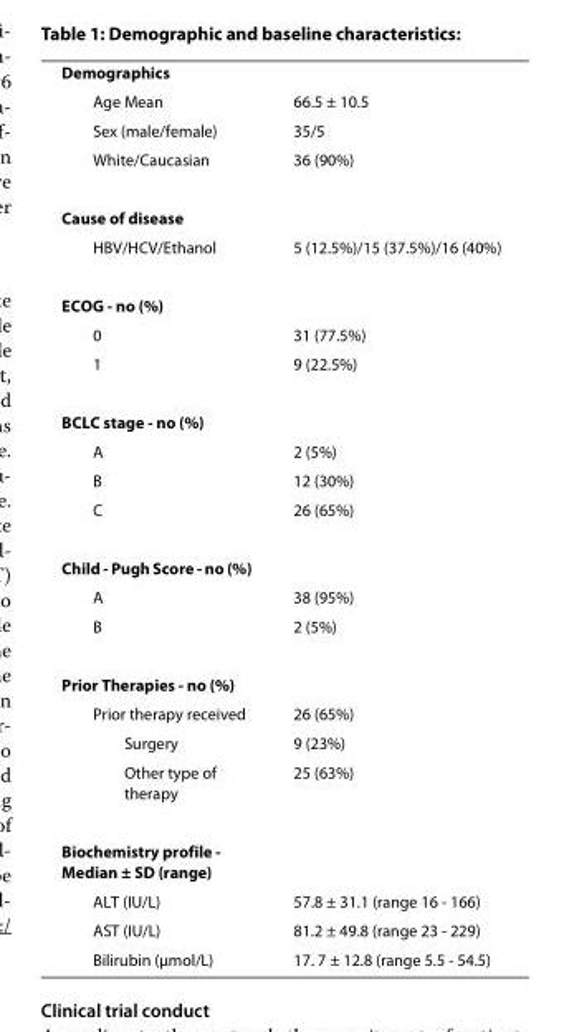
<table><tbody><tr><td colspan="2">Demographics</td></tr><tr><td>Age Mean</td><td>66.5 ± 10.5</td></tr><tr><td>Sex (male/female)</td><td>35/5</td></tr><tr><td>White/Caucasian</td><td>36 (90%)</td></tr><tr><td colspan="2">Cause of disease</td></tr><tr><td>HBV/HCV/Ethanol</td><td>5 (12.5%)/15 (37.5%)/16 (40%)</td></tr><tr><td colspan="2">ECOG - no (%)</td></tr><tr><td>0</td><td>31 (77.5%)</td></tr><tr><td>1</td><td>9 (22.5%)</td></tr><tr><td colspan="2">BCLC stage - no (%)</td></tr><tr><td>A</td><td>2 (5%)</td></tr><tr><td>B</td><td>12 (30%)</td></tr><tr><td>C</td><td>26 (65%)</td></tr><tr><td colspan="2">Child - Pugh Score - no (%)</td></tr><tr><td>A</td><td>38 (95%)</td></tr><tr><td>B</td><td>2 (5%)</td></tr><tr><td colspan="2">Prior Therapies - no (%)</td></tr><tr><td>Prior therapy received</td><td>26 (65%)</td></tr><tr><td>Surgery</td><td>9 (23%)</td></tr><tr><td>Other type of therapy</td><td>25 (63%)</td></tr><tr><td colspan="2">Biochemistry profile - Median ± SD (range)</td></tr><tr><td>ALT (IU/L)</td><td>57.8 ± 31.1 (range 16 - 166)</td></tr><tr><td>AST (IU/L)</td><td>81.2 ± 49.8 (range 23 - 229)</td></tr><tr><td>Bilirubin (μmol/L)</td><td>17. 7 ± 12.8 (range 5.5 - 54.5)</td></tr></tbody></table>